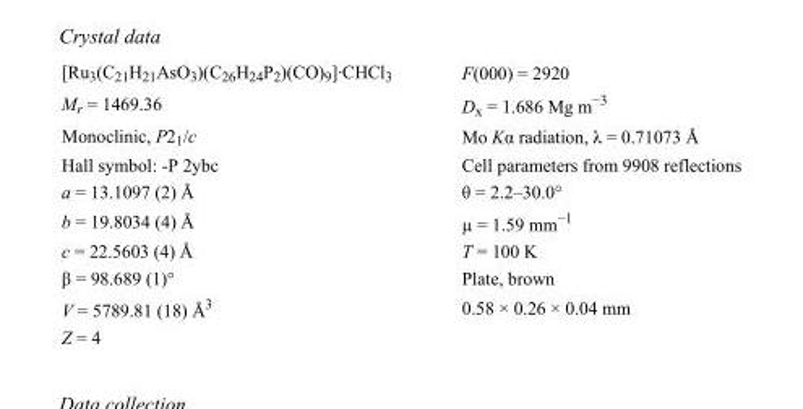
<table><tbody><tr><td>[Ru<sub>3</sub>(C<sub>21</sub>H<sub>21</sub>AsO<sub>3</sub>)(C<sub>26</sub>H<sub>24</sub>P<sub>2</sub>)(CO)<sub>9</sub>]·CHCl<sub>3</sub></td><td>F(000) = 2920</td></tr><tr><td>M<sub>r</sub> = 1469.36</td><td>D<sub>x</sub> = 1.686 Mg m<sup>−3</sup></td></tr><tr><td>Monoclinic, P2<sub>1</sub>/c</td><td>Mo Kα radiation, λ = 0.71073 Å</td></tr><tr><td>Hall symbol: -P 2ybc</td><td>Cell parameters from 9908 reflections</td></tr><tr><td>a = 13.1097 (2) Å</td><td>θ = 2.2–30.0°</td></tr><tr><td>b = 19.8034 (4) Å</td><td>µ = 1.59 mm<sup>−1</sup></td></tr><tr><td>c = 22.5603 (4) Å</td><td>T = 100 K</td></tr><tr><td>β = 98.689 (1)°</td><td>Plate, brown</td></tr><tr><td>V = 5789.81 (18) Å<sup>3</sup></td><td>0.58 × 0.26 × 0.04 mm</td></tr><tr><td>Z = 4</td><td></td></tr></tbody></table>